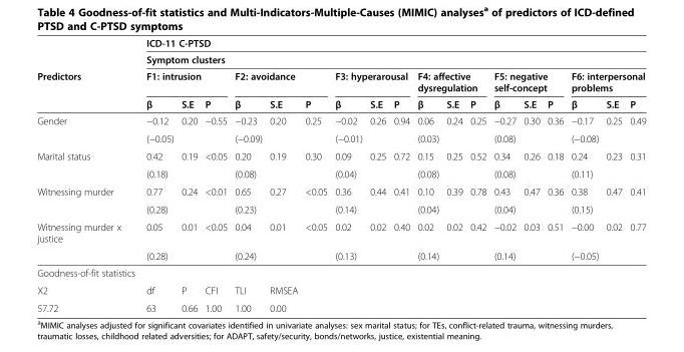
<table><thead><tr><td rowspan="4">Predictors</td><td rowspan="2" colspan="18">ICD-11 C-PTSD Symptom clusters</td></tr><tr></tr><tr><td colspan="3">F1: intrusion</td><td colspan="3">F2: avoidance</td><td colspan="3">F3: hyperarousal</td><td colspan="3">F4: affective dysregulation</td><td colspan="3">F5: negative self-concept</td><td colspan="3">F6: interpersonal problems</td></tr><tr><td>β</td><td>S.E</td><td>P</td><td>β</td><td>S.E</td><td>P</td><td>β</td><td>S.E</td><td>P</td><td>β</td><td>S.E</td><td>P</td><td>β</td><td>S.E</td><td>P</td><td>β</td><td>S.E</td><td>P</td></tr></thead><tbody><tr><td rowspan="2">Gender</td><td>−0.12</td><td>0.20</td><td>−0.55</td><td>−0.23</td><td>0.20</td><td>0.25</td><td>−0.02</td><td>0.26</td><td>0.94</td><td>0.06</td><td>0.24</td><td>0.25</td><td>−0.27</td><td>0.30</td><td>0.36</td><td>−0.17</td><td>0.25</td><td>0.49</td></tr><tr><td>(−0.05)</td><td></td><td></td><td>(−0.09)</td><td></td><td></td><td>(−0.01)</td><td></td><td></td><td>(0.03)</td><td></td><td></td><td>(0.08)</td><td></td><td></td><td>(−0.08)</td><td></td><td></td></tr><tr><td rowspan="2">Marital status</td><td>0.42</td><td>0.19</td><td>&lt;0.05</td><td>0.20</td><td>0.19</td><td>0.30</td><td>0.09</td><td>0.25</td><td>0.72</td><td>0.15</td><td>0.25</td><td>0.52</td><td>0.34</td><td>0.26</td><td>0.18</td><td>0.24</td><td>0.23</td><td>0.31</td></tr><tr><td>(0.18)</td><td></td><td></td><td>(0.08)</td><td></td><td></td><td>(0.04)</td><td></td><td></td><td>(0.08)</td><td></td><td></td><td>(0.08)</td><td></td><td></td><td>(0.11)</td><td></td><td></td></tr><tr><td rowspan="2">Witnessing murder</td><td>0.77</td><td>0.24</td><td>&lt;0.01</td><td>0.65</td><td>0.27</td><td>&lt;0.05</td><td>0.36</td><td>0.44</td><td>0.41</td><td>0.10</td><td>0.39</td><td>0.78</td><td>0.43</td><td>0.47</td><td>0.36</td><td>0.38</td><td>0.47</td><td>0.41</td></tr><tr><td>(0.28)</td><td></td><td></td><td>(0.23)</td><td></td><td></td><td>(0.14)</td><td></td><td></td><td>(0.04)</td><td></td><td></td><td>(0.04)</td><td></td><td></td><td>(0.15)</td><td></td><td></td></tr><tr><td rowspan="2">Witnessing murder x justice</td><td>0.05</td><td>0.01</td><td>&lt;0.05</td><td>0.04</td><td>0.01</td><td>&lt;0.05</td><td>0.02</td><td>0.02</td><td>0.40</td><td>0.02</td><td>0.02</td><td>0.42</td><td>−0.02</td><td>0.03</td><td>0.51</td><td>−0.00</td><td>0.02</td><td>0.77</td></tr><tr><td>(0.28)</td><td></td><td></td><td>(0.24)</td><td></td><td></td><td>(0.13)</td><td></td><td></td><td>(0.14)</td><td></td><td></td><td>(0.14)</td><td></td><td></td><td>(−0.05)</td><td></td><td></td></tr><tr><td colspan="19">Goodness-of-fit statistics</td></tr><tr><td>X2</td><td>df</td><td>P</td><td>CFI</td><td>TLI</td><td>RMSEA</td><td></td><td></td><td></td><td></td><td></td><td></td><td></td><td></td><td></td><td></td><td></td><td></td><td></td></tr><tr><td>57.72</td><td>63</td><td>0.66</td><td>1.00</td><td>1.00</td><td>0.00</td><td></td><td></td><td></td><td></td><td></td><td></td><td></td><td></td><td></td><td></td><td></td><td></td><td></td></tr></tbody></table>